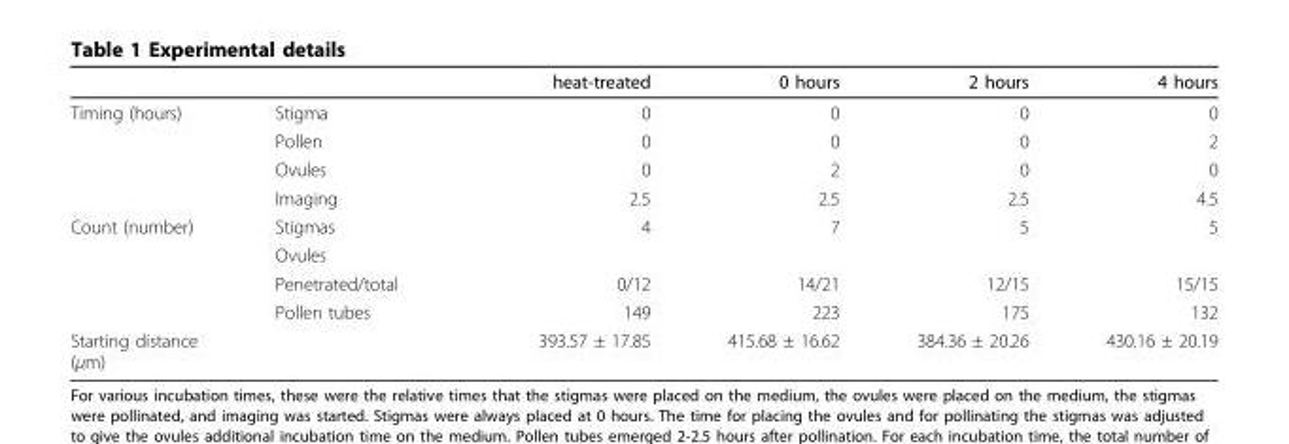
<table><thead><tr><td></td><td></td><td>heat-treated</td><td>0 hours</td><td>2 hours</td><td>4 hours</td></tr></thead><tbody><tr><td rowspan="4">Timing (hours)</td><td>Stigma</td><td>0</td><td>0</td><td>0</td><td>0</td></tr><tr><td>Pollen</td><td>0</td><td>0</td><td>0</td><td>2</td></tr><tr><td>Ovules</td><td>0</td><td>2</td><td>0</td><td>0</td></tr><tr><td>Imaging</td><td>2.5</td><td>2.5</td><td>2.5</td><td>4.5</td></tr><tr><td rowspan="4">Count (number)</td><td>Stigmas</td><td>4</td><td>7</td><td>5</td><td>5</td></tr><tr><td>Ovules</td><td></td><td></td><td></td><td></td></tr><tr><td>Penetrated/total</td><td>0/12</td><td>14/21</td><td>12/15</td><td>15/15</td></tr><tr><td>Pollen tubes</td><td>149</td><td>223</td><td>175</td><td>132</td></tr><tr><td>Starting distance (μm)</td><td></td><td>393.57 ± 17.85</td><td>415.68 ± 16.62</td><td>384.36 ± 20.26</td><td>430.16 ± 20.19</td></tr></tbody></table>